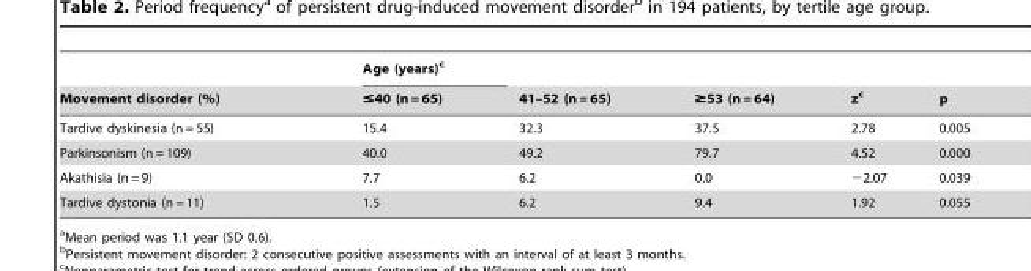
<table><thead><tr><td rowspan="2">Movement disorder (%)</td><td rowspan="2">Age (years)<sup>c</sup> ≤40 (n = 65)</td><td rowspan="2">41–52 (n = 65)</td><td rowspan="2">≥53 (n = 64)</td><td rowspan="2">z<sup>c</sup></td><td rowspan="2">p</td></tr><tr></tr></thead><tbody><tr><td>Tardive dyskinesia (n = 55)</td><td>15.4</td><td>32.3</td><td>37.5</td><td>2.78</td><td>0.005</td></tr><tr><td>Parkinsonism (n = 109)</td><td>40.0</td><td>49.2</td><td>79.7</td><td>4.52</td><td>0.000</td></tr><tr><td>Akathisia (n = 9)</td><td>7.7</td><td>6.2</td><td>0.0</td><td>−2.07</td><td>0.039</td></tr><tr><td>Tardive dystonia (n = 11)</td><td>1.5</td><td>6.2</td><td>9.4</td><td>1.92</td><td>0.055</td></tr></tbody></table>